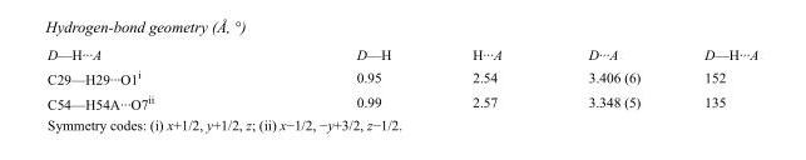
<table><tbody><tr><td>D—H···A</td><td>D—H</td><td>H···A</td><td>D···A</td><td>D—H···A</td></tr><tr><td>C29—H29···O1<sup>i</sup></td><td>0.95</td><td>2.54</td><td>3.406 (6)</td><td>152</td></tr><tr><td>C54—H54A···O7<sup>ii</sup></td><td>0.99</td><td>2.57</td><td>3.348 (5)</td><td>135</td></tr></tbody></table>